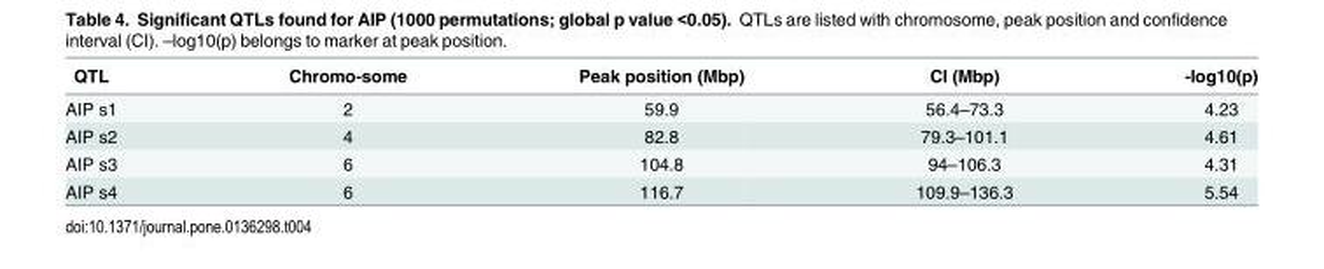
<table><thead><tr><td>QTL</td><td>Chromo-some</td><td>Peak position (Mbp)</td><td>CI (Mbp)</td><td>-log10(p)</td></tr></thead><tbody><tr><td>AIP s1</td><td>2</td><td>59.9</td><td>56.4–73.3</td><td>4.23</td></tr><tr><td>AIP s2</td><td>4</td><td>82.8</td><td>79.3–101.1</td><td>4.61</td></tr><tr><td>AIP s3</td><td>6</td><td>104.8</td><td>94–106.3</td><td>4.31</td></tr><tr><td>AIP s4</td><td>6</td><td>116.7</td><td>109.9–136.3</td><td>5.54</td></tr></tbody></table>